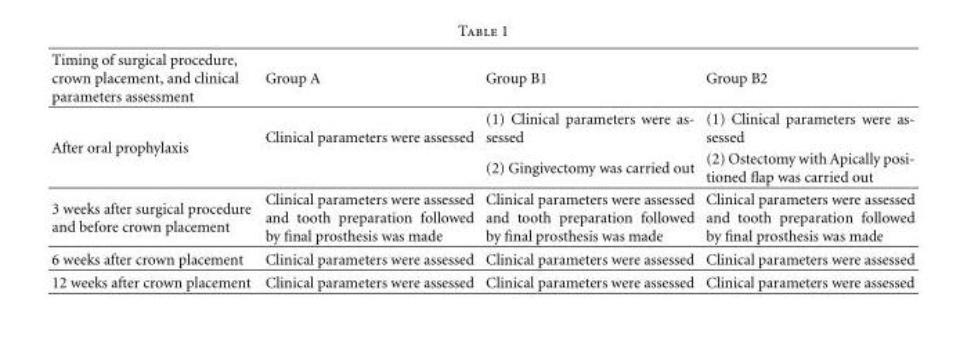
<table><thead><tr><td>Timing of surgical procedure, crown placement, and clinical parameters assessment</td><td>Group A</td><td>Group B1</td><td>Group B2</td></tr></thead><tbody><tr><td rowspan="2">After oral prophylaxis</td><td rowspan="2">Clinical parameters were assessed</td><td>(1) Clinical parameters were as- sessed</td><td>(1) Clinical parameters were as- sessed</td></tr><tr><td>(2) Gingivectomy was carried out</td><td>(2) Ostectomy with Apically posi- tioned flap was carried out</td></tr><tr><td>3 weeks after surgical procedure and before crown placement</td><td>Clinical parameters were assessed and tooth preparation followed by final prosthesis was made</td><td>Clinical parameters were assessed and tooth preparation followed by final prosthesis was made</td><td>Clinical parameters were assessed and tooth preparation followed by final prosthesis was made</td></tr><tr><td>6 weeks after crown placement</td><td>Clinical parameters were assessed</td><td>Clinical parameters were assessed</td><td>Clinical parameters were assessed</td></tr><tr><td>12 weeks after crown placement</td><td>Clinical parameters were assessed</td><td>Clinical parameters were assessed</td><td>Clinical parameters were assessed</td></tr></tbody></table>